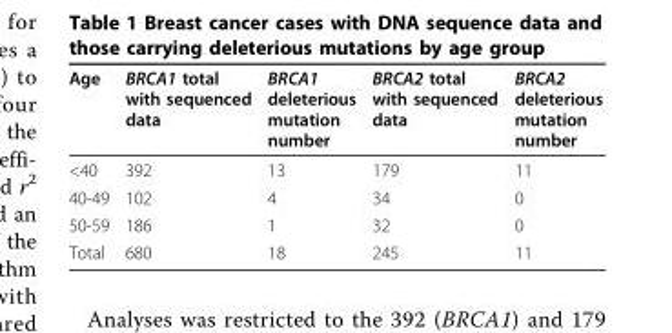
<table><thead><tr><td>Age</td><td>BRCA1 total with sequenced data</td><td>BRCA1 deleterious mutation number</td><td>BRCA2 total with sequenced data</td><td>BRCA2 deleterious mutation number</td></tr></thead><tbody><tr><td>&lt;40</td><td>392</td><td>13</td><td>179</td><td>11</td></tr><tr><td>40-49</td><td>102</td><td>4</td><td>34</td><td>0</td></tr><tr><td>50-59</td><td>186</td><td>1</td><td>32</td><td>0</td></tr><tr><td>Total</td><td>680</td><td>18</td><td>245</td><td>11</td></tr></tbody></table>